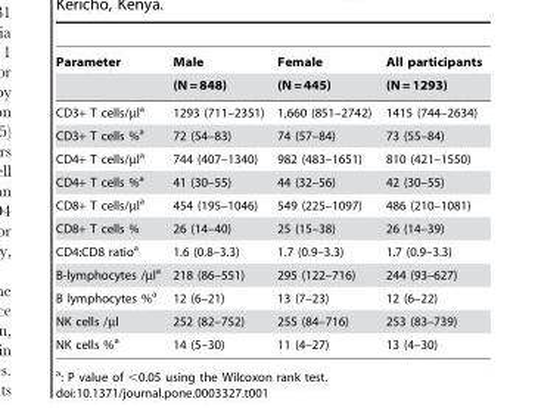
<table><thead><tr><td rowspan="2">Parameter</td><td rowspan="2">Male (N = 848)</td><td rowspan="2">Female (N = 445)</td><td rowspan="2">All participants (N = 1293)</td></tr><tr></tr></thead><tbody><tr><td>CD3+ T cells/µl<sup>a</sup></td><td>1293 (711–2351)</td><td>1,660 (851–2742)</td><td>1415 (744–2634)</td></tr><tr><td>CD3+ T cells %<sup>a</sup></td><td>72 (54–83)</td><td>74 (57–84)</td><td>73 (55–84)</td></tr><tr><td>CD4+ T cells/µl<sup>a</sup></td><td>744 (407–1340)</td><td>982 (483–1651)</td><td>810 (421–1550)</td></tr><tr><td>CD4+ T cells %<sup>a</sup></td><td>41 (30–55)</td><td>44 (32–56)</td><td>42 (30–55)</td></tr><tr><td>CD8+ T cells/µl<sup>a</sup></td><td>454 (195–1046)</td><td>549 (225–1097)</td><td>486 (210–1081)</td></tr><tr><td>CD8+ T cells %</td><td>26 (14–40)</td><td>25 (15–38)</td><td>26 (14–39)</td></tr><tr><td>CD4:CD8 ratioa</td><td>1.6 (0.8–3.3)</td><td>1.7 (0.9–3.3)</td><td>1.7 (0.9–3.3)</td></tr><tr><td>B-lymphocytes /µl<sup>a</sup></td><td>218 (86–551)</td><td>295 (122–716)</td><td>244 (93–627)</td></tr><tr><td>B lymphocytes %<sup>a</sup></td><td>12 (6–21)</td><td>13 (7–23)</td><td>12 (6–22)</td></tr><tr><td>NK cells /µl</td><td>252 (82–752)</td><td>255 (84–716)</td><td>253 (83–739)</td></tr><tr><td>NK cells %<sup>a</sup></td><td>14 (5–30)</td><td>11 (4–27)</td><td>13 (4–30)</td></tr></tbody></table>